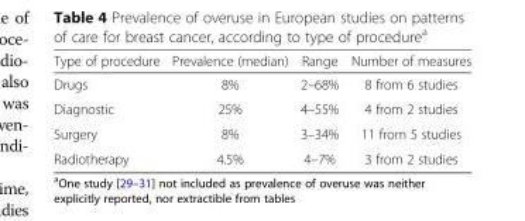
<table><thead><tr><td>Type of procedure</td><td>Prevalence (median)</td><td>Range</td><td>Number of measures</td></tr></thead><tbody><tr><td>Drugs</td><td>8%</td><td>2–68%</td><td>8 from 6 studies</td></tr><tr><td>Diagnostic</td><td>25%</td><td>4–55%</td><td>4 from 2 studies</td></tr><tr><td>Surgery</td><td>8%</td><td>3–34%</td><td>11 from 5 studies</td></tr><tr><td>Radiotherapy</td><td>4.5%</td><td>4–7%</td><td>3 from 2 studies</td></tr></tbody></table>